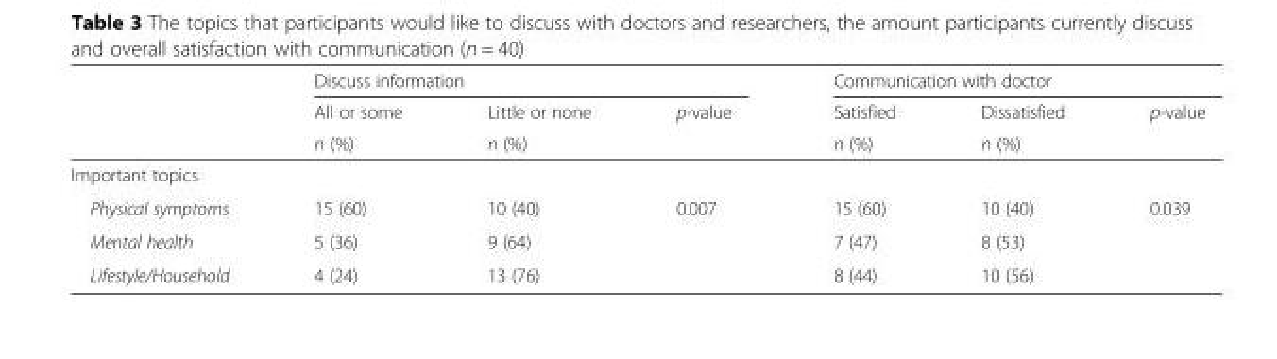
<table><thead><tr><td rowspan="3"></td><td colspan="3">Discuss information</td><td colspan="3">Communication with doctor</td></tr><tr><td rowspan="2">All or some n (%)</td><td rowspan="2">Little or none n (%)</td><td rowspan="2">p-value</td><td rowspan="2">Satisfied n (%)</td><td rowspan="2">Dissatisfied n (%)</td><td rowspan="2">p-value</td></tr><tr></tr></thead><tbody><tr><td colspan="7">Important topics</td></tr><tr><td>Physical symptoms</td><td>15 (60)</td><td>10 (40)</td><td>0.007</td><td>15 (60)</td><td>10 (40)</td><td>0.039</td></tr><tr><td>Mental health</td><td>5 (36)</td><td>9 (64)</td><td></td><td>7 (47)</td><td>8 (53)</td><td></td></tr><tr><td>Lifestyle/Household</td><td>4 (24)</td><td>13 (76)</td><td></td><td>8 (44)</td><td>10 (56)</td><td></td></tr></tbody></table>